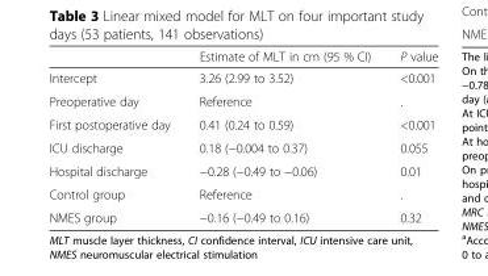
<table><thead><tr><td></td><td>Estimate of MLT in cm (95 % CI)</td><td>P value</td></tr></thead><tbody><tr><td>Intercept</td><td>3.26 (2.99 to 3.52)</td><td>&lt;0.001</td></tr><tr><td>Preoperative day</td><td>Reference</td><td>.</td></tr><tr><td>First postoperative day</td><td>0.41 (0.24 to 0.59)</td><td>&lt;0.001</td></tr><tr><td>ICU discharge</td><td>0.18 (−0.004 to 0.37)</td><td>0.055</td></tr><tr><td>Hospital discharge</td><td>−0.28 (−0.49 to −0.06)</td><td>0.01</td></tr><tr><td>Control group</td><td>Reference</td><td>.</td></tr><tr><td>NMES group</td><td>−0.16 (−0.49 to 0.16)</td><td>0.32</td></tr></tbody></table>